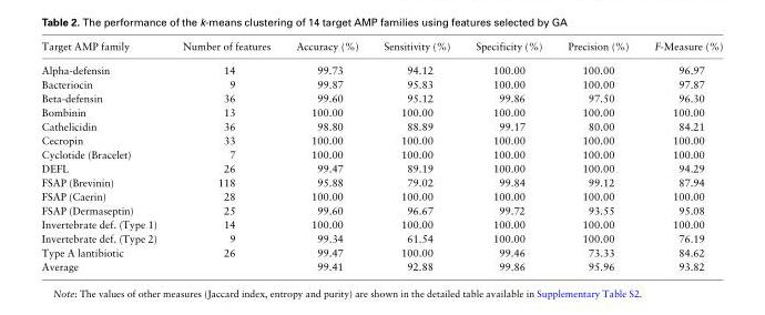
<table><thead><tr><td>Target AMP family</td><td>Number of features</td><td>Accuracy (%)</td><td>Sensitivity (%)</td><td>Specificity (%)</td><td>Precision (%)</td><td>F-Measure (%)</td></tr></thead><tbody><tr><td>Alpha-defensin</td><td>14</td><td>99.73</td><td>94.12</td><td>100.00</td><td>100.00</td><td>96.97</td></tr><tr><td>Bacteriocin</td><td>9</td><td>99.87</td><td>95.83</td><td>100.00</td><td>100.00</td><td>97.87</td></tr><tr><td>Beta-defensin</td><td>36</td><td>99.60</td><td>95.12</td><td>99.86</td><td>97.50</td><td>96.30</td></tr><tr><td>Bombinin</td><td>13</td><td>100.00</td><td>100.00</td><td>100.00</td><td>100.00</td><td>100.00</td></tr><tr><td>Cathelicidin</td><td>36</td><td>98.80</td><td>88.89</td><td>99.17</td><td>80.00</td><td>84.21</td></tr><tr><td>Cecropin</td><td>33</td><td>100.00</td><td>100.00</td><td>100.00</td><td>100.00</td><td>100.00</td></tr><tr><td>Cyclotide (Bracelet)</td><td>7</td><td>100.00</td><td>100.00</td><td>100.00</td><td>100.00</td><td>100.00</td></tr><tr><td>DEFL</td><td>26</td><td>99.47</td><td>89.19</td><td>100.00</td><td>100.00</td><td>94.29</td></tr><tr><td>FSAP (Brevinin)</td><td>118</td><td>95.88</td><td>79.02</td><td>99.84</td><td>99.12</td><td>87.94</td></tr><tr><td>FSAP (Caerin)</td><td>28</td><td>100.00</td><td>100.00</td><td>100.00</td><td>100.00</td><td>100.00</td></tr><tr><td>FSAP (Dermaseptin)</td><td>25</td><td>99.60</td><td>96.67</td><td>99.72</td><td>93.55</td><td>95.08</td></tr><tr><td>Invertebrate def. (Type 1)</td><td>14</td><td>100.00</td><td>100.00</td><td>100.00</td><td>100.00</td><td>100.00</td></tr><tr><td>Invertebrate def. (Type 2)</td><td>9</td><td>99.34</td><td>61.54</td><td>100.00</td><td>100.00</td><td>76.19</td></tr><tr><td>Type A lantibiotic</td><td>26</td><td>99.47</td><td>100.00</td><td>99.46</td><td>73.33</td><td>84.62</td></tr><tr><td>Average</td><td></td><td>99.41</td><td>92.88</td><td>99.86</td><td>95.96</td><td>93.82</td></tr></tbody></table>